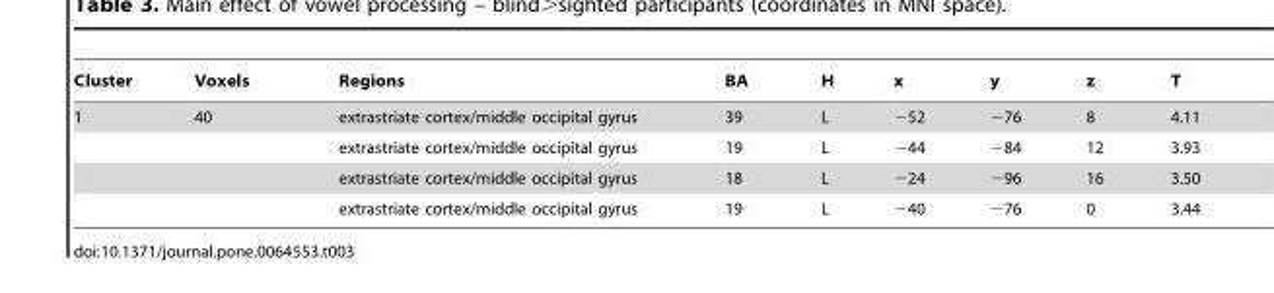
<table><thead><tr><td>Cluster</td><td>Voxels</td><td>Regions</td><td>BA</td><td>H</td><td>x</td><td>y</td><td>z</td><td>T</td></tr></thead><tbody><tr><td rowspan="4">1</td><td>40</td><td>extrastriate cortex/middle occipital gyrus</td><td>39</td><td>L</td><td>−52</td><td>−76</td><td>8</td><td>4.11</td></tr><tr><td></td><td>extrastriate cortex/middle occipital gyrus</td><td>19</td><td>L</td><td>−44</td><td>−84</td><td>12</td><td>3.93</td></tr><tr><td></td><td>extrastriate cortex/middle occipital gyrus</td><td>18</td><td>L</td><td>−24</td><td>−96</td><td>16</td><td>3.50</td></tr><tr><td></td><td>extrastriate cortex/middle occipital gyrus</td><td>19</td><td>L</td><td>−40</td><td>−76</td><td>0</td><td>3.44</td></tr></tbody></table>